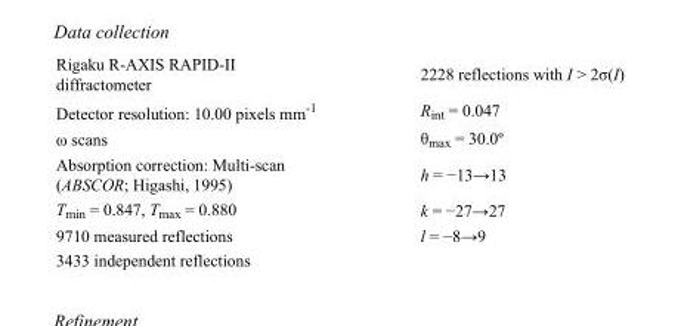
<table><tbody><tr><td>Rigaku R-AXIS RAPID-II diffractometer</td><td>2228 reflections with I &gt; 2σ(I)</td></tr><tr><td>Detector resolution: 10.00 pixels mm<sup>-1</sup></td><td>R<sub>int</sub> = 0.047</td></tr><tr><td>ω scans</td><td>θmax = 30.0º</td></tr><tr><td>Absorption correction: Multi-scan (ABSCOR; Higashi, 1995)</td><td>h = −13→13</td></tr><tr><td>T<sub>min</sub> = 0.847, T<sub>max</sub> = 0.880</td><td>k = −27→27</td></tr><tr><td>9710 measured reflections</td><td>l = −8→9</td></tr><tr><td>3433 independent reflections</td><td></td></tr></tbody></table>